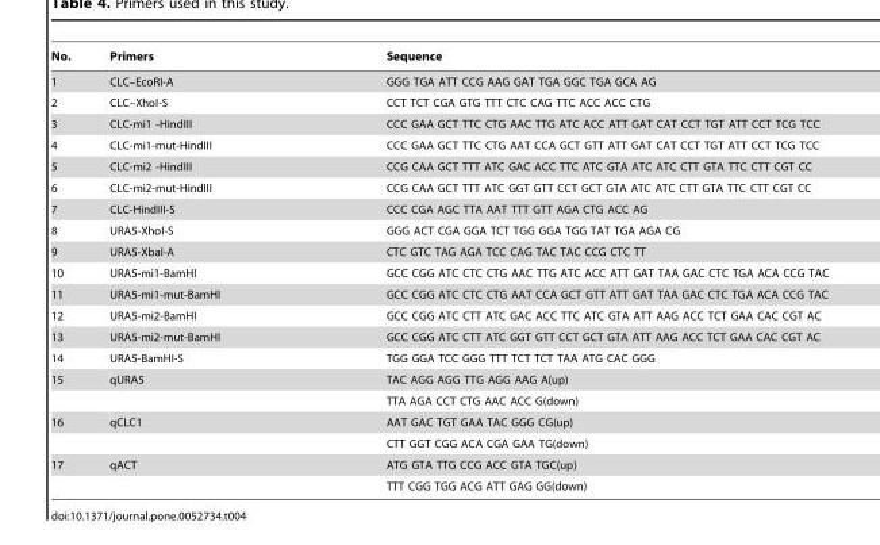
<table><thead><tr><td>No.</td><td>Primers</td><td>Sequence</td></tr></thead><tbody><tr><td>1</td><td>CLC–EcoRI-A</td><td>GGG TGA ATT CCG AAG GAT TGA GGC TGA GCA AG</td></tr><tr><td>2</td><td>CLC–XhoI-S</td><td>CCT TCT CGA GTG TTT CTC CAG TTC ACC ACC CTG</td></tr><tr><td>3</td><td>CLC-mi1 -HindIII</td><td>CCC GAA GCT TTC CTG AAC TTG ATC ACC ATT GAT CAT CCT TGT ATT CCT TCG TCC</td></tr><tr><td>4</td><td>CLC-mi1-mut-HindIII</td><td>CCC GAA GCT TTC CTG AAT CCA GCT GTT ATT GAT CAT CCT TGT ATT CCT TCG TCC</td></tr><tr><td>5</td><td>CLC-mi2 -HindIII</td><td>CCG CAA GCT TTT ATC GAC ACC TTC ATC GTA ATC ATC CTT GTA TTC CTT CGT CC</td></tr><tr><td>6</td><td>CLC-mi2-mut-HindIII</td><td>CCG CAA GCT TTT ATC GGT GTT CCT GCT GTA ATC ATC CTT GTA TTC CTT CGT CC</td></tr><tr><td>7</td><td>CLC-HindIII-S</td><td>CCC CGA AGC TTA AAT TTT GTT AGA CTG ACC AG</td></tr><tr><td>8</td><td>URA5-XhoI-S</td><td>GGG ACT CGA GGA TCT TGG GGA TGG TAT TGA AGA CG</td></tr><tr><td>9</td><td>URA5-XbaI-A</td><td>CTC GTC TAG AGA TCC CAG TAC TAC CCG CTC TT</td></tr><tr><td>10</td><td>URA5-mi1-BamHI</td><td>GCC CGG ATC CTC CTG AAC TTG ATC ACC ATT GAT TAA GAC CTC TGA ACA CCG TAC</td></tr><tr><td>11</td><td>URA5-mi1-mut-BamHI</td><td>GCC CGG ATC CTC CTG AAT CCA GCT GTT ATT GAT TAA GAC CTC TGA ACA CCG TAC</td></tr><tr><td>12</td><td>URA5-mi2-BamHI</td><td>GCC CGG ATC CTT ATC GAC ACC TTC ATC GTA ATT AAG ACC TCT GAA CAC CGT AC</td></tr><tr><td>13</td><td>URA5-mi2-mut-BamHI</td><td>GCC CGG ATC CTT ATC GGT GTT CCT GCT GTA ATT AAG ACC TCT GAA CAC CGT AC</td></tr><tr><td>14</td><td>URA5-BamHI-S</td><td>TGG GGA TCC GGG TTT TCT TCT TAA ATG CAC GGG</td></tr><tr><td rowspan="2">15</td><td>qURA5</td><td>TAC AGG AGG TTG AGG AAG A(up)</td></tr><tr><td></td><td>TTA AGA CCT CTG AAC ACC G(down)</td></tr><tr><td rowspan="2">16</td><td>qCLC1</td><td>AAT GAC TGT GAA TAC GGG CG(up)</td></tr><tr><td></td><td>CTT GGT CGG ACA CGA GAA TG(down)</td></tr><tr><td rowspan="2">17</td><td>qACT</td><td>ATG GTA TTG CCG ACC GTA TGC(up)</td></tr><tr><td></td><td>TTT CGG TGG ACG ATT GAG GG(down)</td></tr></tbody></table>